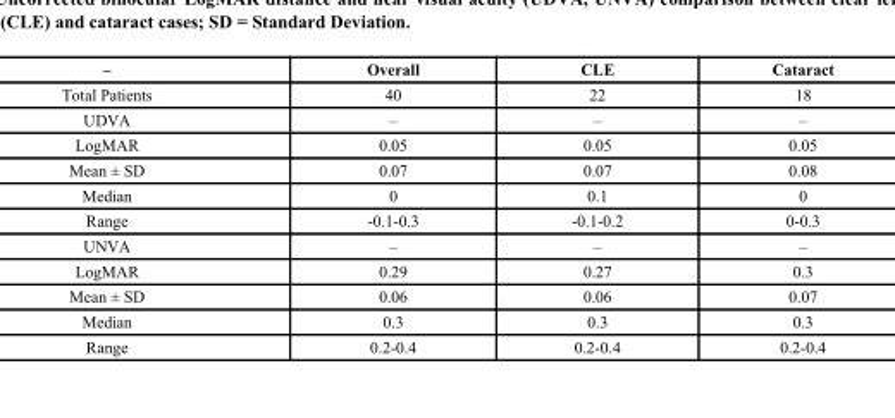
<table><thead><tr><td>–</td><td>Overall</td><td>CLE</td><td>Cataract</td></tr></thead><tbody><tr><td>Total Patients</td><td>40</td><td>22</td><td>18</td></tr><tr><td>UDVA</td><td>–</td><td>–</td><td>–</td></tr><tr><td>LogMAR</td><td>0.05</td><td>0.05</td><td>0.05</td></tr><tr><td>Mean ± SD</td><td>0.07</td><td>0.07</td><td>0.08</td></tr><tr><td>Median</td><td>0</td><td>0.1</td><td>0</td></tr><tr><td>Range</td><td>-0.1-0.3</td><td>-0.1-0.2</td><td>0-0.3</td></tr><tr><td>UNVA</td><td>–</td><td>–</td><td>–</td></tr><tr><td>LogMAR</td><td>0.29</td><td>0.27</td><td>0.3</td></tr><tr><td>Mean ± SD</td><td>0.06</td><td>0.06</td><td>0.07</td></tr><tr><td>Median</td><td>0.3</td><td>0.3</td><td>0.3</td></tr><tr><td>Range</td><td>0.2-0.4</td><td>0.2-0.4</td><td>0.2-0.4</td></tr></tbody></table>